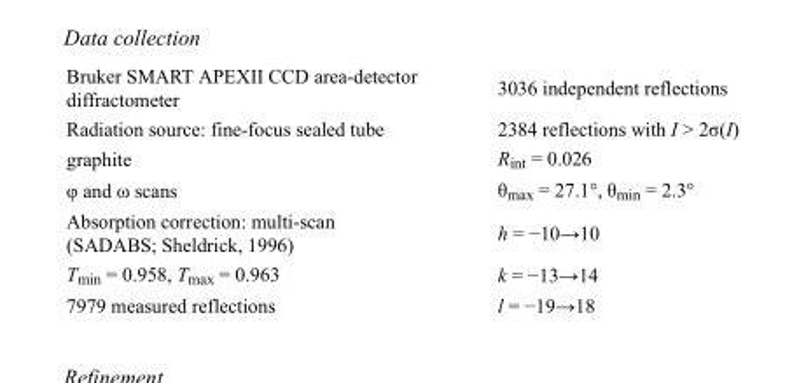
<table><tbody><tr><td>Bruker SMART APEXII CCD area-detector diffractometer</td><td>3036 independent reflections</td></tr><tr><td>Radiation source: fine-focus sealed tube</td><td>2384 reflections with I &gt; 2σ(I)</td></tr><tr><td>graphite</td><td>R<sub>int</sub> = 0.026</td></tr><tr><td>φ and ω scans</td><td>θ<sub>max</sub> = 27.1°, θ<sub>min</sub> = 2.3°</td></tr><tr><td>Absorption correction: multi-scan (SADABS; Sheldrick, 1996)</td><td>h = −10→10</td></tr><tr><td>T<sub>min</sub> = 0.958, T<sub>max</sub> = 0.963</td><td>k = −13→14</td></tr><tr><td>7979 measured reflections</td><td>l = −19→18</td></tr></tbody></table>